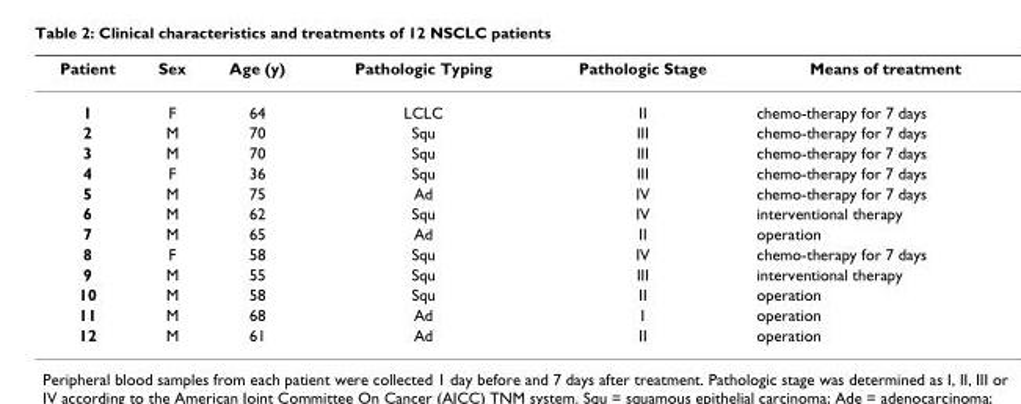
<table><thead><tr><td>Patient</td><td>Sex</td><td>Age (y)</td><td>Pathologic Typing</td><td>Pathologic Stage</td><td>Means of treatment</td></tr></thead><tbody><tr><td>1</td><td>F</td><td>64</td><td>LCLC</td><td>II</td><td>chemo-therapy for 7 days</td></tr><tr><td>2</td><td>M</td><td>70</td><td>Squ</td><td>III</td><td>chemo-therapy for 7 days</td></tr><tr><td>3</td><td>M</td><td>70</td><td>Squ</td><td>III</td><td>chemo-therapy for 7 days</td></tr><tr><td>4</td><td>F</td><td>36</td><td>Squ</td><td>III</td><td>chemo-therapy for 7 days</td></tr><tr><td>5</td><td>M</td><td>75</td><td>Ad</td><td>IV</td><td>chemo-therapy for 7 days</td></tr><tr><td>6</td><td>M</td><td>62</td><td>Squ</td><td>IV</td><td>interventional therapy</td></tr><tr><td>7</td><td>M</td><td>65</td><td>Ad</td><td>II</td><td>operation</td></tr><tr><td>8</td><td>F</td><td>58</td><td>Squ</td><td>IV</td><td>chemo-therapy for 7 days</td></tr><tr><td>9</td><td>M</td><td>55</td><td>Squ</td><td>III</td><td>interventional therapy</td></tr><tr><td>10</td><td>M</td><td>58</td><td>Squ</td><td>II</td><td>operation</td></tr><tr><td>11</td><td>M</td><td>68</td><td>Ad</td><td>I</td><td>operation</td></tr><tr><td>12</td><td>M</td><td>61</td><td>Ad</td><td>II</td><td>operation</td></tr></tbody></table>